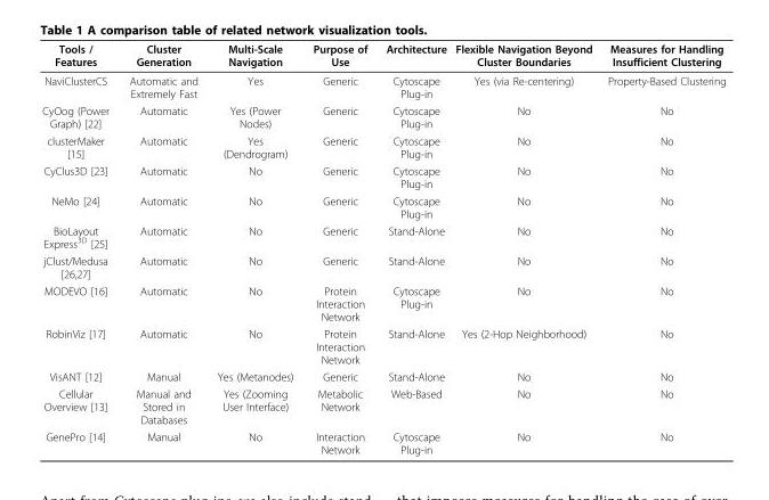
<table><thead><tr><td>Tools / Features</td><td>Cluster Generation</td><td>Multi-Scale Navigation</td><td>Purpose of Use</td><td>Architecture</td><td>Flexible Navigation Beyond Cluster Boundaries</td><td>Measures for Handling Insufficient Clustering</td></tr></thead><tbody><tr><td>NaviClusterCS</td><td>Automatic and Extremely Fast</td><td>Yes</td><td>Generic</td><td>Cytoscape Plug-in</td><td>Yes (via Re-centering)</td><td>Property-Based Clustering</td></tr><tr><td>CyOog (Power Graph) [22]</td><td>Automatic</td><td>Yes (Power Nodes)</td><td>Generic</td><td>Cytoscape Plug-in</td><td>No</td><td>No</td></tr><tr><td>clusterMaker [15]</td><td>Automatic</td><td>Yes (Dendrogram)</td><td>Generic</td><td>Cytoscape Plug-in</td><td>No</td><td>No</td></tr><tr><td>CyClus3D [23]</td><td>Automatic</td><td>No</td><td>Generic</td><td>Cytoscape Plug-in</td><td>No</td><td>No</td></tr><tr><td>NeMo [24]</td><td>Automatic</td><td>No</td><td>Generic</td><td>Cytoscape Plug-in</td><td>No</td><td>No</td></tr><tr><td>BioLayout Express<sup>3D</sup> [25]</td><td>Automatic</td><td>No</td><td>Generic</td><td>Stand-Alone</td><td>No</td><td>No</td></tr><tr><td>jClust/Medusa [26,27]</td><td>Automatic</td><td>No</td><td>Generic</td><td>Stand-Alone</td><td>No</td><td>No</td></tr><tr><td>MODEVO [16]</td><td>Automatic</td><td>No</td><td>Protein Interaction Network</td><td>Cytoscape Plug-in</td><td>No</td><td>No</td></tr><tr><td>RobinViz [17]</td><td>Automatic</td><td>No</td><td>Protein Interaction Network</td><td>Stand-Alone</td><td>Yes (2-Hop Neighborhood)</td><td>No</td></tr><tr><td>VisANT [12]</td><td>Manual</td><td>Yes (Metanodes)</td><td>Generic</td><td>Stand-Alone</td><td>No</td><td>No</td></tr><tr><td>Cellular Overview [13]</td><td>Manual and Stored in Databases</td><td>Yes (Zooming User Interface)</td><td>Metabolic Network</td><td>Web-Based</td><td>No</td><td>No</td></tr><tr><td>GenePro [14]</td><td>Manual</td><td>No</td><td>Interaction Network</td><td>Cytoscape Plug-in</td><td>No</td><td>No</td></tr></tbody></table>